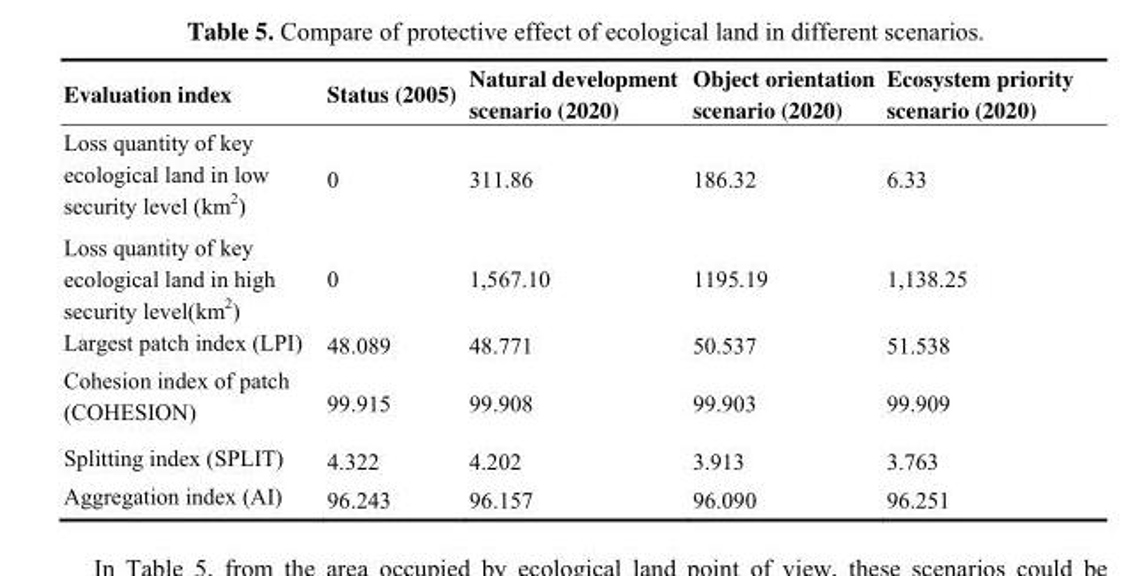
<table><thead><tr><td>Evaluation index</td><td>Status (2005)</td><td>Natural development scenario (2020)</td><td>Object orientation scenario (2020)</td><td>Ecosystem priority scenario (2020)</td></tr></thead><tbody><tr><td>Loss quantity of key ecological land in low security level (km<sup>2</sup>)</td><td>0</td><td>311.86</td><td>186.32</td><td>6.33</td></tr><tr><td>Loss quantity of key ecological land in high security level(km<sup>2</sup>)</td><td>0</td><td>1,567.10</td><td>1195.19</td><td>1,138.25</td></tr><tr><td>Largest patch index (LPI)</td><td>48.089</td><td>48.771</td><td>50.537</td><td>51.538</td></tr><tr><td>Cohesion index of patch (COHESION)</td><td>99.915</td><td>99.908</td><td>99.903</td><td>99.909</td></tr><tr><td>Splitting index (SPLIT)</td><td>4.322</td><td>4.202</td><td>3.913</td><td>3.763</td></tr><tr><td>Aggregation index (AI)</td><td>96.243</td><td>96.157</td><td>96.090</td><td>96.251</td></tr></tbody></table>